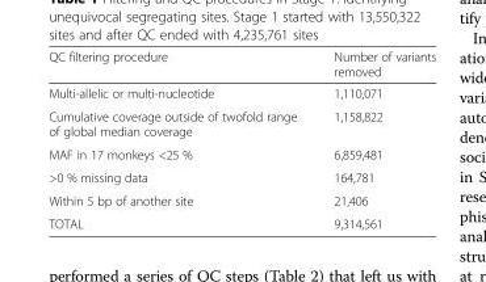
<table><thead><tr><td>QC filtering procedure</td><td>Number of variants removed</td></tr></thead><tbody><tr><td>Multi-allelic or multi-nucleotide</td><td>1,110,071</td></tr><tr><td>Cumulative coverage outside of twofold range of global median coverage</td><td>1,158,822</td></tr><tr><td>MAF in 17 monkeys &lt;25 %</td><td>6,859,481</td></tr><tr><td>&gt;0 % missing data</td><td>164,781</td></tr><tr><td>Within 5 bp of another site</td><td>21,406</td></tr><tr><td>TOTAL</td><td>9,314,561</td></tr></tbody></table>